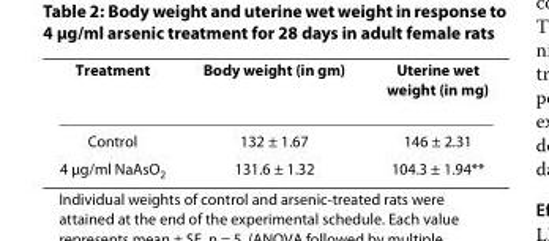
<table><thead><tr><td>Treatment</td><td>Body weight (in gm)</td><td>Uterine wet weight (in mg)</td></tr></thead><tbody><tr><td>Control</td><td>132 ± 1.67</td><td>146 ± 2.31</td></tr><tr><td>4 μg/ml NaAsO<sub>2</sub></td><td>131.6 ± 1.32</td><td>104.3 ± 1.94**</td></tr></tbody></table>